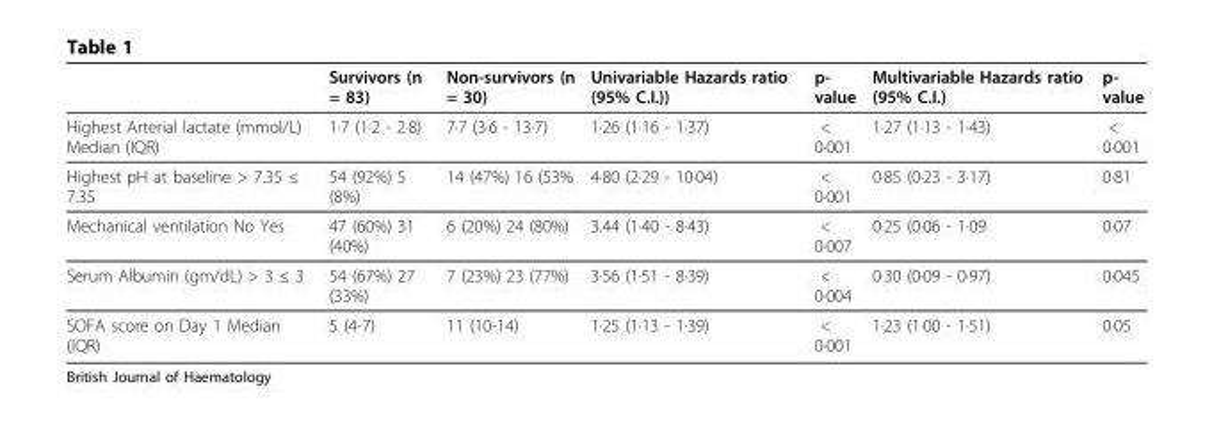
<table><thead><tr><td></td><td>Survivors (n = 83)</td><td>Non-survivors (n = 30)</td><td>Univariable Hazards ratio (95% C.I.))</td><td>p- value</td><td>Multivariable Hazards ratio (95% C.I.)</td><td>p- value</td></tr></thead><tbody><tr><td>Highest Arterial lactate (mmol/L) Median (IQR)</td><td>1·7 (1·2 - 2·8)</td><td>7·7 (3·6 - 13·7)</td><td>1·26 (1·16 - 1·37)</td><td>&lt; 0·001</td><td>1·27 (1·13 - 1·43)</td><td>&lt; 0·001</td></tr><tr><td>Highest pH at baseline &gt; 7.35 ≤ 7.35</td><td>54 (92%) 5 (8%)</td><td>14 (47%) 16 (53%</td><td>4·80 (2·29 - 10·04)</td><td>&lt; 0·001</td><td>0·85 (0·23 - 3·17)</td><td>0·81</td></tr><tr><td>Mechanical ventilation No Yes</td><td>47 (60%) 31 (40%)</td><td>6 (20%) 24 (80%)</td><td>3.44 (1·40 - 8·43)</td><td>&lt; 0·007</td><td>0·25 (0·06 - 1·09</td><td>0·07</td></tr><tr><td>Serum Albumin (gm/dL) &gt; 3 ≤ 3</td><td>54 (67%) 27 (33%)</td><td>7 (23%) 23 (77%)</td><td>3·56 (1·51 - 8·39)</td><td>&lt; 0·004</td><td>0·30 (0·09 - 0·97)</td><td>0·045</td></tr><tr><td>SOFA score on Day 1 Median (IQR)</td><td>5 (4-7)</td><td>11 (10-14)</td><td>1·25 (1·13 - 1·39)</td><td>&lt; 0·001</td><td>1·23 (1·00 - 1·51)</td><td>0·05</td></tr></tbody></table>